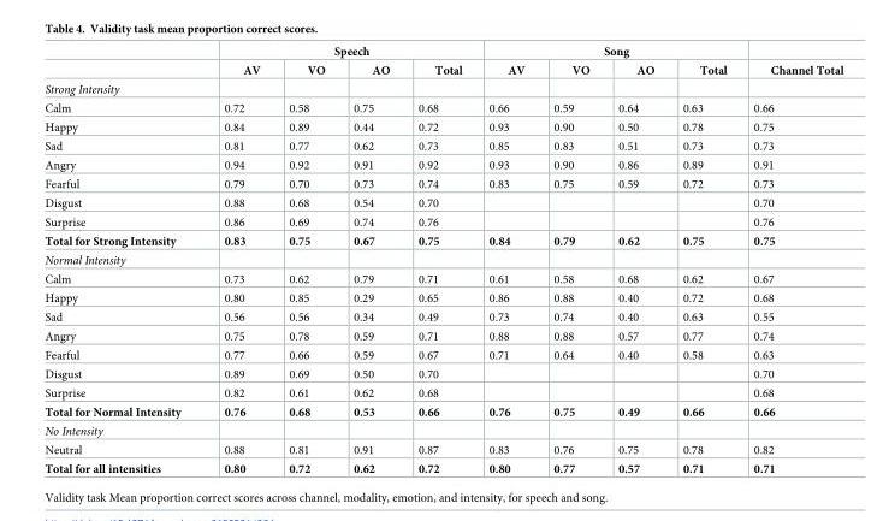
<table><thead><tr><td rowspan="2"></td><td colspan="4">Speech</td><td colspan="4">Song</td><td rowspan="2">Channel Total</td></tr><tr><td>AV</td><td>VO</td><td>AO</td><td>Total</td><td>AV</td><td>VO</td><td>AO</td><td>Total</td></tr></thead><tbody><tr><td colspan="10">Strong Intensity</td></tr><tr><td>Calm</td><td>0.72</td><td>0.58</td><td>0.75</td><td>0.68</td><td>0.66</td><td>0.59</td><td>0.64</td><td>0.63</td><td>0.66</td></tr><tr><td>Happy</td><td>0.84</td><td>0.89</td><td>0.44</td><td>0.72</td><td>0.93</td><td>0.90</td><td>0.50</td><td>0.78</td><td>0.75</td></tr><tr><td>Sad</td><td>0.81</td><td>0.77</td><td>0.62</td><td>0.73</td><td>0.85</td><td>0.83</td><td>0.51</td><td>0.73</td><td>0.73</td></tr><tr><td>Angry</td><td>0.94</td><td>0.92</td><td>0.91</td><td>0.92</td><td>0.93</td><td>0.90</td><td>0.86</td><td>0.89</td><td>0.91</td></tr><tr><td>Fearful</td><td>0.79</td><td>0.70</td><td>0.73</td><td>0.74</td><td>0.83</td><td>0.75</td><td>0.59</td><td>0.72</td><td>0.73</td></tr><tr><td>Disgust</td><td>0.88</td><td>0.68</td><td>0.54</td><td>0.70</td><td></td><td></td><td></td><td></td><td>0.70</td></tr><tr><td>Surprise</td><td>0.86</td><td>0.69</td><td>0.74</td><td>0.76</td><td></td><td></td><td></td><td></td><td>0.76</td></tr><tr><td>Total for Strong Intensity</td><td>0.83</td><td>0.75</td><td>0.67</td><td>0.75</td><td>0.84</td><td>0.79</td><td>0.62</td><td>0.75</td><td>0.75</td></tr><tr><td colspan="10">Normal Intensity</td></tr><tr><td>Calm</td><td>0.73</td><td>0.62</td><td>0.79</td><td>0.71</td><td>0.61</td><td>0.58</td><td>0.68</td><td>0.62</td><td>0.67</td></tr><tr><td>Happy</td><td>0.80</td><td>0.85</td><td>0.29</td><td>0.65</td><td>0.86</td><td>0.88</td><td>0.40</td><td>0.72</td><td>0.68</td></tr><tr><td>Sad</td><td>0.56</td><td>0.56</td><td>0.34</td><td>0.49</td><td>0.73</td><td>0.74</td><td>0.40</td><td>0.63</td><td>0.55</td></tr><tr><td>Angry</td><td>0.75</td><td>0.78</td><td>0.59</td><td>0.71</td><td>0.88</td><td>0.88</td><td>0.57</td><td>0.77</td><td>0.74</td></tr><tr><td>Fearful</td><td>0.77</td><td>0.66</td><td>0.59</td><td>0.67</td><td>0.71</td><td>0.64</td><td>0.40</td><td>0.58</td><td>0.63</td></tr><tr><td>Disgust</td><td>0.89</td><td>0.69</td><td>0.50</td><td>0.70</td><td></td><td></td><td></td><td></td><td>0.70</td></tr><tr><td>Surprise</td><td>0.82</td><td>0.61</td><td>0.62</td><td>0.68</td><td></td><td></td><td></td><td></td><td>0.68</td></tr><tr><td>Total for Normal Intensity</td><td>0.76</td><td>0.68</td><td>0.53</td><td>0.66</td><td>0.76</td><td>0.75</td><td>0.49</td><td>0.66</td><td>0.66</td></tr><tr><td colspan="10">No Intensity</td></tr><tr><td>Neutral</td><td>0.88</td><td>0.81</td><td>0.91</td><td>0.87</td><td>0.83</td><td>0.76</td><td>0.75</td><td>0.78</td><td>0.82</td></tr><tr><td>Total for all intensities</td><td>0.80</td><td>0.72</td><td>0.62</td><td>0.72</td><td>0.80</td><td>0.77</td><td>0.57</td><td>0.71</td><td>0.71</td></tr></tbody></table>